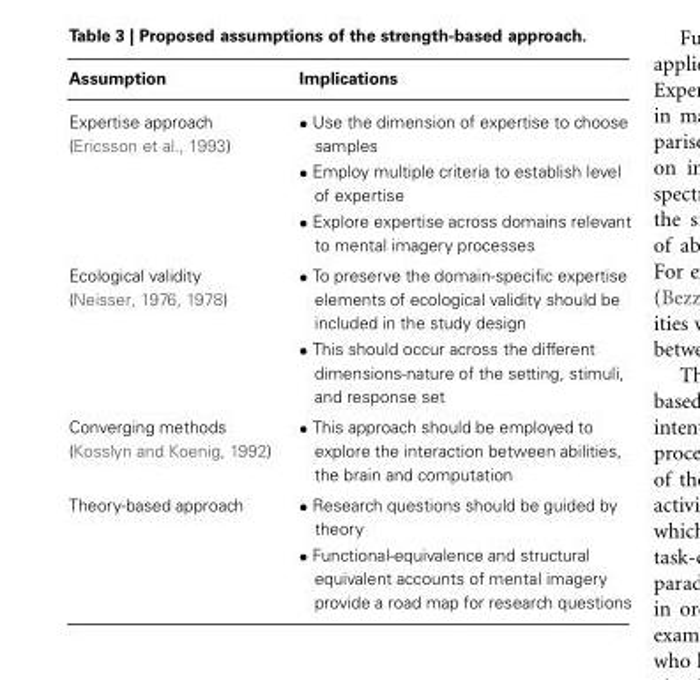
<table><thead><tr><td>Assumption</td><td>Implications</td></tr></thead><tbody><tr><td rowspan="3">Expertise approach (Ericsson et al., 1993)</td><td>• Use the dimension of expertise to choose samples</td></tr><tr><td>• Employ multiple criteria to establish level of expertise</td></tr><tr><td>• Explore expertise across domains relevant to mental imagery processes</td></tr><tr><td rowspan="2">Ecological validity (Neisser, 1976, 1978)</td><td>• To preserve the domain-specific expertise elements of ecological validity should be included in the study design</td></tr><tr><td>• This should occur across the different dimensions-nature of the setting, stimuli, and response set</td></tr><tr><td>Converging methods (Kosslyn and Koenig, 1992)</td><td>• This approach should be employed to explore the interaction between abilities, the brain and computation</td></tr><tr><td rowspan="2">Theory-based approach</td><td>• Research questions should be guided by theory</td></tr><tr><td>• Functional-equivalence and structural equivalent accounts of mental imagery provide a road map for research questions</td></tr></tbody></table>